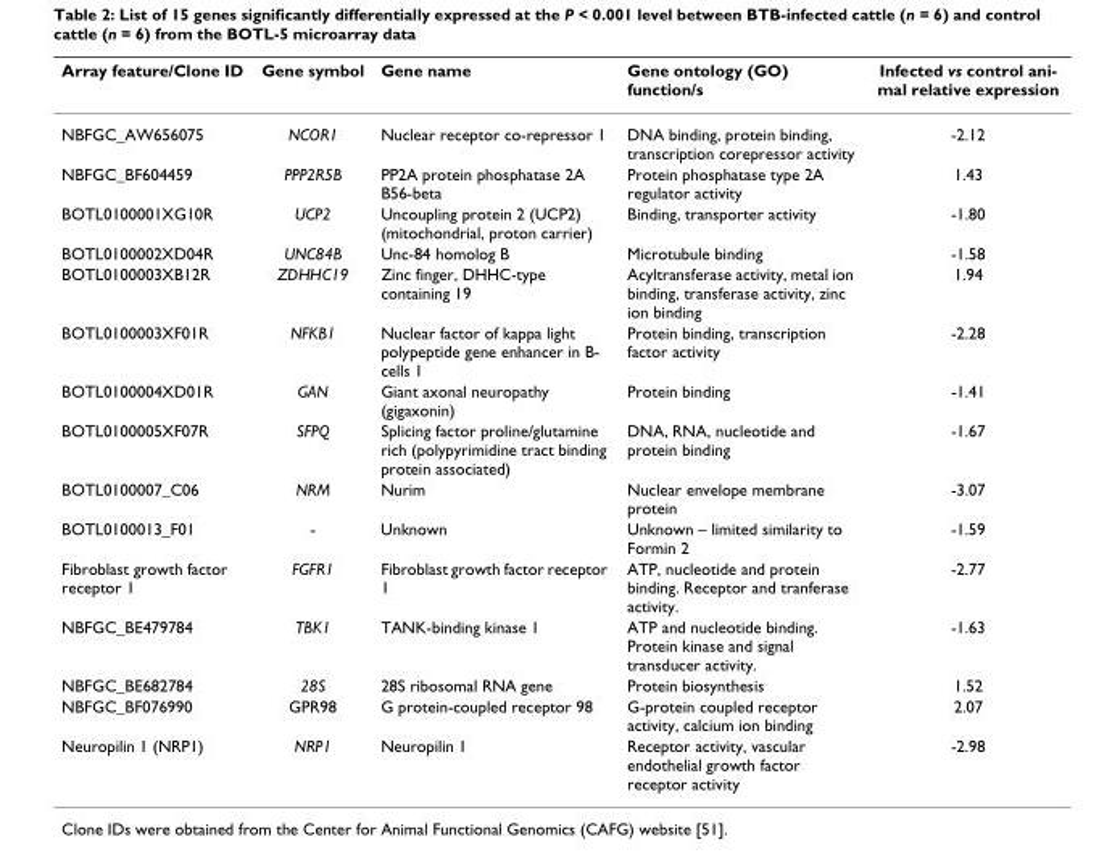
<table><thead><tr><td>Array feature/Clone ID</td><td>Gene symbol</td><td>Gene name</td><td>Gene ontology (GO) function/s</td><td>Infected vs control ani- mal relative expression</td></tr></thead><tbody><tr><td>NBFGC_AW656075</td><td>NCOR1</td><td>Nuclear receptor co-repressor 1</td><td>DNA binding, protein binding, transcription corepressor activity</td><td>-2.12</td></tr><tr><td>NBFGC_BF604459</td><td>PPP2R5B</td><td>PP2A protein phosphatase 2A B56-beta</td><td>Protein phosphatase type 2A regulator activity</td><td>1.43</td></tr><tr><td>BOTL0100001XG10R</td><td>UCP2</td><td>Uncoupling protein 2 (UCP2) (mitochondrial, proton carrier)</td><td>Binding, transporter activity</td><td>-1.80</td></tr><tr><td>BOTL0100002XD04R</td><td>UNC84B</td><td>Unc-84 homolog B</td><td>Microtubule binding</td><td>-1.58</td></tr><tr><td>BOTL0100003XB12R</td><td>ZDHHC19</td><td>Zinc finger, DHHC-type containing 19</td><td>Acyltransferase activity, metal ion binding, transferase activity, zinc ion binding</td><td>1.94</td></tr><tr><td>BOTL0100003XF01R</td><td>NFKB1</td><td>Nuclear factor of kappa light polypeptide gene enhancer in B- cells 1</td><td>Protein binding, transcription factor activity</td><td>-2.28</td></tr><tr><td>BOTL0100004XD01R</td><td>GAN</td><td>Giant axonal neuropathy (gigaxonin)</td><td>Protein binding</td><td>-1.41</td></tr><tr><td>BOTL0100005XF07R</td><td>SFPQ</td><td>Splicing factor proline/glutamine rich (polypyrimidine tract binding protein associated)</td><td>DNA, RNA, nucleotide and protein binding</td><td>-1.67</td></tr><tr><td>BOTL0100007_C06</td><td>NRM</td><td>Nurim</td><td>Nuclear envelope membrane protein</td><td>-3.07</td></tr><tr><td>BOTL0100013_F01</td><td>-</td><td>Unknown</td><td>Unknown – limited similarity to Formin 2</td><td>-1.59</td></tr><tr><td>Fibroblast growth factor receptor 1</td><td>FGFR1</td><td>Fibroblast growth factor receptor 1</td><td>ATP, nucleotide and protein binding. Receptor and tranferase activity.</td><td>-2.77</td></tr><tr><td>NBFGC_BE479784</td><td>TBK1</td><td>TANK-binding kinase 1</td><td>ATP and nucleotide binding. Protein kinase and signal transducer activity.</td><td>-1.63</td></tr><tr><td>NBFGC_BE682784</td><td>28S</td><td>28S ribosomal RNA gene</td><td>Protein biosynthesis</td><td>1.52</td></tr><tr><td>NBFGC_BF076990</td><td>GPR98</td><td>G protein-coupled receptor 98</td><td>G-protein coupled receptor activity, calcium ion binding</td><td>2.07</td></tr><tr><td>Neuropilin 1 (NRP1)</td><td>NRP1</td><td>Neuropilin 1</td><td>Receptor activity, vascular endothelial growth factor receptor activity</td><td>-2.98</td></tr></tbody></table>